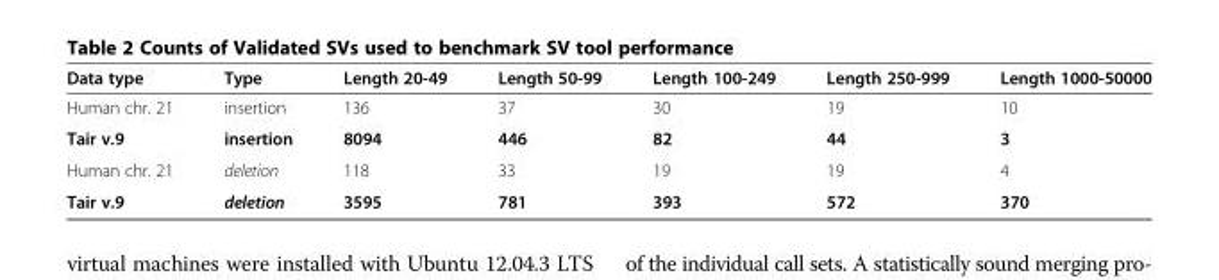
<table><thead><tr><td>Data type</td><td>Type</td><td>Length 20-49</td><td>Length 50-99</td><td>Length 100-249</td><td>Length 250-999</td><td>Length 1000-50000</td></tr></thead><tbody><tr><td>Human chr. 21</td><td>insertion</td><td>136</td><td>37</td><td>30</td><td>19</td><td>10</td></tr><tr><td>Tair v.9</td><td>insertion</td><td>8094</td><td>446</td><td>82</td><td>44</td><td>3</td></tr><tr><td>Human chr. 21</td><td>deletion</td><td>118</td><td>33</td><td>19</td><td>19</td><td>4</td></tr><tr><td>Tair v.9</td><td>deletion</td><td>3595</td><td>781</td><td>393</td><td>572</td><td>370</td></tr></tbody></table>